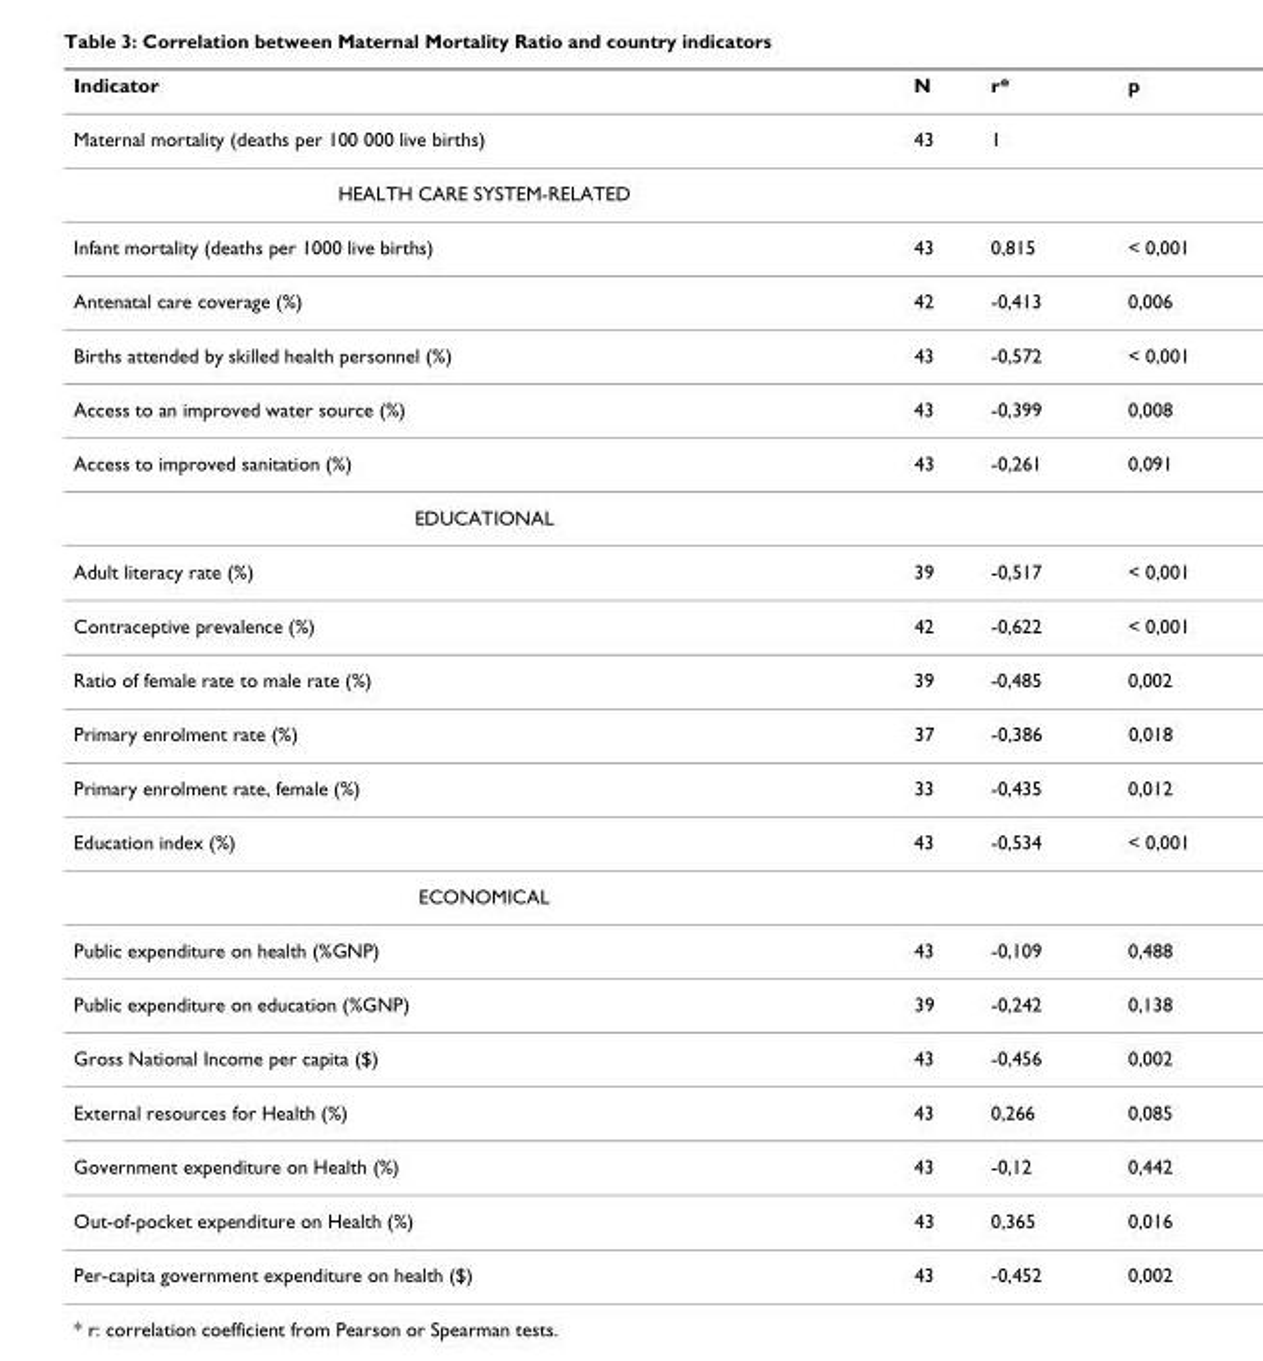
<table><thead><tr><td>Indicator</td><td>N</td><td>r*</td><td>p</td></tr></thead><tbody><tr><td>Maternal mortality (deaths per 100 000 live births)</td><td>43</td><td>1</td><td></td></tr><tr><td colspan="4">HEALTH CARE SYSTEM-RELATED</td></tr><tr><td>Infant mortality (deaths per 1000 live births)</td><td>43</td><td>0,815</td><td>&lt; 0,001</td></tr><tr><td>Antenatal care coverage (%)</td><td>42</td><td>-0,413</td><td>0,006</td></tr><tr><td>Births attended by skilled health personnel (%)</td><td>43</td><td>-0,572</td><td>&lt; 0,001</td></tr><tr><td>Access to an improved water source (%)</td><td>43</td><td>-0,399</td><td>0,008</td></tr><tr><td>Access to improved sanitation (%)</td><td>43</td><td>-0,261</td><td>0,091</td></tr><tr><td colspan="4">EDUCATIONAL</td></tr><tr><td>Adult literacy rate (%)</td><td>39</td><td>-0,517</td><td>&lt; 0,001</td></tr><tr><td>Contraceptive prevalence (%)</td><td>42</td><td>-0,622</td><td>&lt; 0,001</td></tr><tr><td>Ratio of female rate to male rate (%)</td><td>39</td><td>-0,485</td><td>0,002</td></tr><tr><td>Primary enrolment rate (%)</td><td>37</td><td>-0,386</td><td>0,018</td></tr><tr><td>Primary enrolment rate, female (%)</td><td>33</td><td>-0,435</td><td>0,012</td></tr><tr><td>Education index (%)</td><td>43</td><td>-0,534</td><td>&lt; 0,001</td></tr><tr><td colspan="4">ECONOMICAL</td></tr><tr><td>Public expenditure on health (%GNP)</td><td>43</td><td>-0,109</td><td>0,488</td></tr><tr><td>Public expenditure on education (%GNP)</td><td>39</td><td>-0,242</td><td>0,138</td></tr><tr><td>Gross National Income per capita ($)</td><td>43</td><td>-0,456</td><td>0,002</td></tr><tr><td>External resources for Health (%)</td><td>43</td><td>0,266</td><td>0,085</td></tr><tr><td>Government expenditure on Health (%)</td><td>43</td><td>-0,12</td><td>0,442</td></tr><tr><td>Out-of-pocket expenditure on Health (%)</td><td>43</td><td>0,365</td><td>0,016</td></tr><tr><td>Per-capita government expenditure on health ($)</td><td>43</td><td>-0,452</td><td>0,002</td></tr></tbody></table>